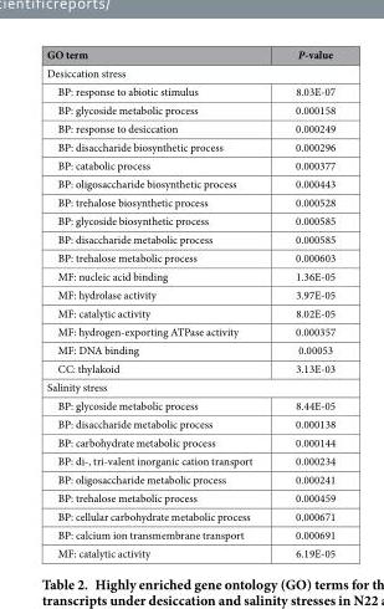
<table><thead><tr><td>GO term</td><td>P-value</td></tr></thead><tbody><tr><td colspan="2">Desiccation stress</td></tr><tr><td>BP: response to abiotic stimulus</td><td>8.03E-07</td></tr><tr><td>BP: glycoside metabolic process</td><td>0.000158</td></tr><tr><td>BP: response to desiccation</td><td>0.000249</td></tr><tr><td>BP: disaccharide biosynthetic process</td><td>0.000296</td></tr><tr><td>BP: catabolic process</td><td>0.000377</td></tr><tr><td>BP: oligosaccharide biosynthetic process</td><td>0.000443</td></tr><tr><td>BP: trehalose biosynthetic process</td><td>0.000528</td></tr><tr><td>BP: glycoside biosynthetic process</td><td>0.000585</td></tr><tr><td>BP: disaccharide metabolic process</td><td>0.000585</td></tr><tr><td>BP: trehalose metabolic process</td><td>0.000603</td></tr><tr><td>MF: nucleic acid binding</td><td>1.36E-05</td></tr><tr><td>MF: hydrolase activity</td><td>3.97E-05</td></tr><tr><td>MF: catalytic activity</td><td>8.02E-05</td></tr><tr><td>MF: hydrogen-exporting ATPase activity</td><td>0.000357</td></tr><tr><td>MF: DNA binding</td><td>0.00053</td></tr><tr><td>CC: thylakoid</td><td>3.13E-03</td></tr><tr><td colspan="2">Salinity stress</td></tr><tr><td>BP: glycoside metabolic process</td><td>8.44E-05</td></tr><tr><td>BP: disaccharide metabolic process</td><td>0.000138</td></tr><tr><td>BP: carbohydrate metabolic process</td><td>0.000144</td></tr><tr><td>BP: di-, tri-valent inorganic cation transport</td><td>0.000234</td></tr><tr><td>BP: oligosaccharide metabolic process</td><td>0.000241</td></tr><tr><td>BP: trehalose metabolic process</td><td>0.000459</td></tr><tr><td>BP: cellular carbohydrate metabolic process</td><td>0.000671</td></tr><tr><td>BP: calcium ion transmembrane transport</td><td>0.000691</td></tr><tr><td>MF: catalytic activity</td><td>6.19E-05</td></tr></tbody></table>